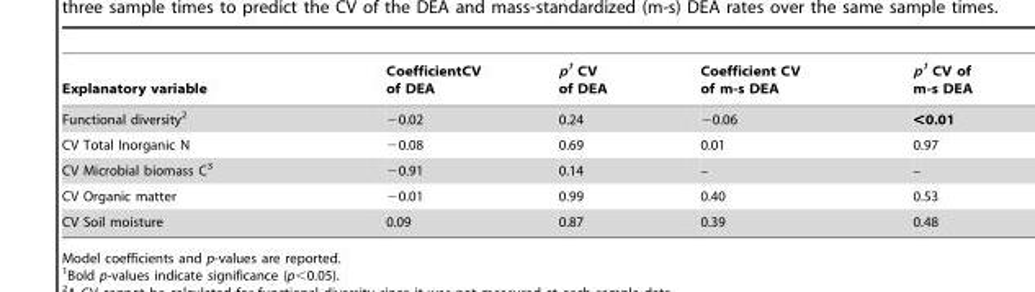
<table><thead><tr><td>Explanatory variable</td><td>CoefficientCV of DEA</td><td>p1 CV of DEA</td><td>Coefficient CV of m-s DEA</td><td>p1 CV of m-s DEA</td></tr></thead><tbody><tr><td>Functional diversity<sup>2</sup></td><td>−0.02</td><td>0.24</td><td>−0.06</td><td>&lt;0.01</td></tr><tr><td>CV Total Inorganic N</td><td>−0.08</td><td>0.69</td><td>0.01</td><td>0.97</td></tr><tr><td>CV Microbial biomass C<sup>3</sup></td><td>−0.91</td><td>0.14</td><td>–</td><td>–</td></tr><tr><td>CV Organic matter</td><td>−0.01</td><td>0.99</td><td>0.40</td><td>0.53</td></tr><tr><td>CV Soil moisture</td><td>0.09</td><td>0.87</td><td>0.39</td><td>0.48</td></tr></tbody></table>